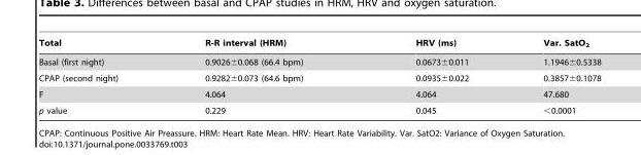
<table><thead><tr><td>Total</td><td>R-R interval (HRM)</td><td>HRV (ms)</td><td>Var. SatO<sub>2</sub></td></tr></thead><tbody><tr><td>Basal (first night)</td><td>0.9026±0.068 (66.4 bpm)</td><td>0.0673±0.011</td><td>1.1946±0.5338</td></tr><tr><td>CPAP (second night)</td><td>0.9282±0.073 (64.6 bpm)</td><td>0.0935±0.022</td><td>0.3857±0.1078</td></tr><tr><td>F</td><td>4.064</td><td>4.064</td><td>47.680</td></tr><tr><td>p value</td><td>0.229</td><td>0.045</td><td>&lt;0.0001</td></tr></tbody></table>